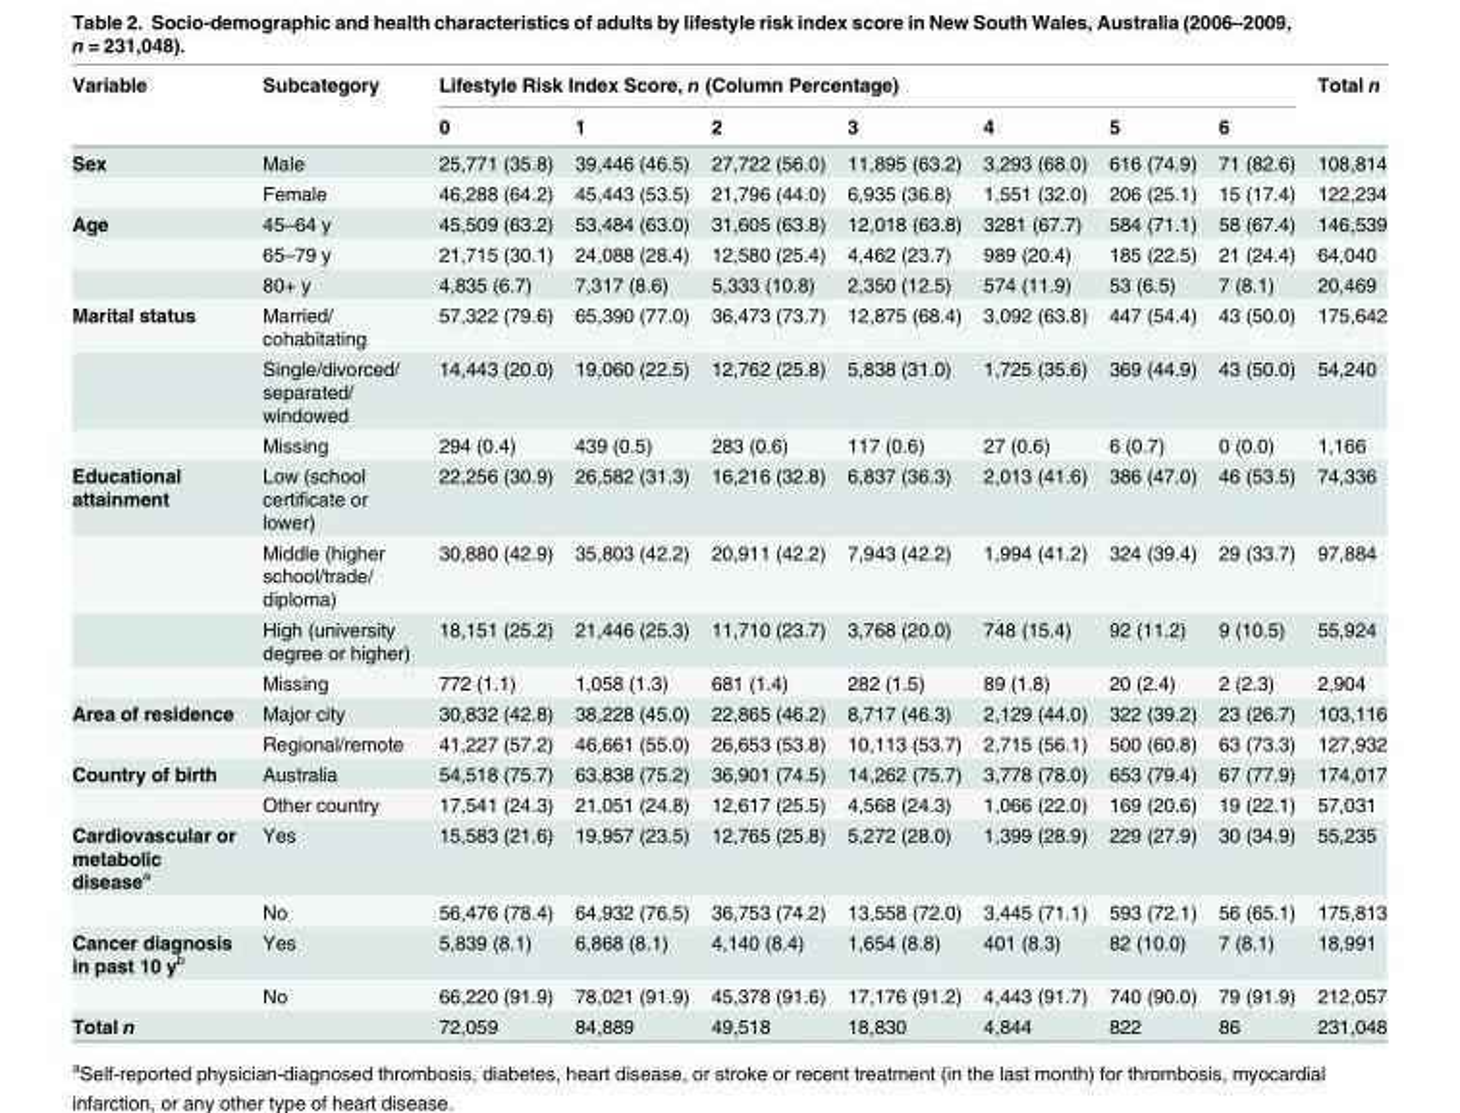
<table><thead><tr><td rowspan="2">Variable</td><td rowspan="2">Subcategory</td><td colspan="7">Lifestyle Risk Index Score, n (Column Percentage)</td><td rowspan="2">Total n</td></tr><tr><td>0</td><td>1</td><td>2</td><td>3</td><td>4</td><td>5</td><td>6</td></tr></thead><tbody><tr><td rowspan="2">Sex</td><td>Male</td><td>25,771 (35.8)</td><td>39,446 (46.5)</td><td>27,722 (56.0)</td><td>11,895 (63.2)</td><td>3,293 (68.0)</td><td>616 (74.9)</td><td>71 (82.6)</td><td>108,814</td></tr><tr><td>Female</td><td>46,288 (64.2)</td><td>45,443 (53.5)</td><td>21,796 (44.0)</td><td>6,935 (36.8)</td><td>1,551 (32.0)</td><td>206 (25.1)</td><td>15 (17.4)</td><td>122,234</td></tr><tr><td rowspan="3">Age</td><td>45–64 y</td><td>45,509 (63.2)</td><td>53,484 (63.0)</td><td>31,605 (63.8)</td><td>12,018 (63.8)</td><td>3281 (67.7)</td><td>584 (71.1)</td><td>58 (67.4)</td><td>146,539</td></tr><tr><td>65–79 y</td><td>21,715 (30.1)</td><td>24,088 (28.4)</td><td>12,580 (25.4)</td><td>4,462 (23.7)</td><td>989 (20.4)</td><td>185 (22.5)</td><td>21 (24.4)</td><td>64,040</td></tr><tr><td>80+ y</td><td>4,835 (6.7)</td><td>7,317 (8.6)</td><td>5,333 (10.8)</td><td>2,350 (12.5)</td><td>574 (11.9)</td><td>53 (6.5)</td><td>7 (8.1)</td><td>20,469</td></tr><tr><td rowspan="3">Marital status</td><td>Married/ cohabitating</td><td>57,322 (79.6)</td><td>65,390 (77.0)</td><td>36,473 (73.7)</td><td>12,875 (68.4)</td><td>3,092 (63.8)</td><td>447 (54.4)</td><td>43 (50.0)</td><td>175,642</td></tr><tr><td>Single/divorced/ separated/ windowed</td><td>14,443 (20.0)</td><td>19,060 (22.5)</td><td>12,762 (25.8)</td><td>5,838 (31.0)</td><td>1,725 (35.6)</td><td>369 (44.9)</td><td>43 (50.0)</td><td>54,240</td></tr><tr><td>Missing</td><td>294 (0.4)</td><td>439 (0.5)</td><td>283 (0.6)</td><td>117 (0.6)</td><td>27 (0.6)</td><td>6 (0.7)</td><td>0 (0.0)</td><td>1,166</td></tr><tr><td rowspan="4">Educational attainment</td><td>Low (school certificate or lower)</td><td>22,256 (30.9)</td><td>26,582 (31.3)</td><td>16,216 (32.8)</td><td>6,837 (36.3)</td><td>2,013 (41.6)</td><td>386 (47.0)</td><td>46 (53.5)</td><td>74,336</td></tr><tr><td>Middle (higher school/trade/ diploma)</td><td>30,880 (42.9)</td><td>35,803 (42.2)</td><td>20,911 (42.2)</td><td>7,943 (42.2)</td><td>1,994 (41.2)</td><td>324 (39.4)</td><td>29 (33.7)</td><td>97,884</td></tr><tr><td>High (university degree or higher)</td><td>18,151 (25.2)</td><td>21,446 (25.3)</td><td>11,710 (23.7)</td><td>3,768 (20.0)</td><td>748 (15.4)</td><td>92 (11.2)</td><td>9 (10.5)</td><td>55,924</td></tr><tr><td>Missing</td><td>772 (1.1)</td><td>1,058 (1.3)</td><td>681 (1.4)</td><td>282 (1.5)</td><td>89 (1.8)</td><td>20 (2.4)</td><td>2 (2.3)</td><td>2,904</td></tr><tr><td rowspan="2">Area of residence</td><td>Major city</td><td>30,832 (42.8)</td><td>38,228 (45.0)</td><td>22,865 (46.2)</td><td>8,717 (46.3)</td><td>2,129 (44.0)</td><td>322 (39.2)</td><td>23 (26.7)</td><td>103,116</td></tr><tr><td>Regional/remote</td><td>41,227 (57.2)</td><td>46,661 (55.0)</td><td>26,653 (53.8)</td><td>10,113 (53.7)</td><td>2,715 (56.1)</td><td>500 (60.8)</td><td>63 (73.3)</td><td>127,932</td></tr><tr><td rowspan="2">Country of birth</td><td>Australia</td><td>54,518 (75.7)</td><td>63,838 (75.2)</td><td>36,901 (74.5)</td><td>14,262 (75.7)</td><td>3,778 (78.0)</td><td>653 (79.4)</td><td>67 (77.9)</td><td>174,017</td></tr><tr><td>Other country</td><td>17,541 (24.3)</td><td>21,051 (24.8)</td><td>12,617 (25.5)</td><td>4,568 (24.3)</td><td>1,066 (22.0)</td><td>169 (20.6)</td><td>19 (22.1)</td><td>57,031</td></tr><tr><td rowspan="2">Cardiovascular or metabolic disease<sup>a</sup></td><td>Yes</td><td>15,583 (21.6)</td><td>19,957 (23.5)</td><td>12,765 (25.8)</td><td>5,272 (28.0)</td><td>1,399 (28.9)</td><td>229 (27.9)</td><td>30 (34.9)</td><td>55,235</td></tr><tr><td>No</td><td>56,476 (78.4)</td><td>64,932 (76.5)</td><td>36,753 (74.2)</td><td>13,558 (72.0)</td><td>3,445 (71.1)</td><td>593 (72.1)</td><td>56 (65.1)</td><td>175,813</td></tr><tr><td rowspan="2">Cancer diagnosis in past 10 y<sup>b</sup></td><td>Yes</td><td>5,839 (8.1)</td><td>6,868 (8.1)</td><td>4,140 (8.4)</td><td>1,654 (8.8)</td><td>401 (8.3)</td><td>82 (10.0)</td><td>7 (8.1)</td><td>18,991</td></tr><tr><td>No</td><td>66,220 (91.9)</td><td>78,021 (91.9)</td><td>45,378 (91.6)</td><td>17,176 (91.2)</td><td>4,443 (91.7)</td><td>740 (90.0)</td><td>79 (91.9)</td><td>212,057</td></tr><tr><td>Total n</td><td></td><td>72,059</td><td>84,889</td><td>49,518</td><td>18,830</td><td>4,844</td><td>822</td><td>86</td><td>231,048</td></tr></tbody></table>